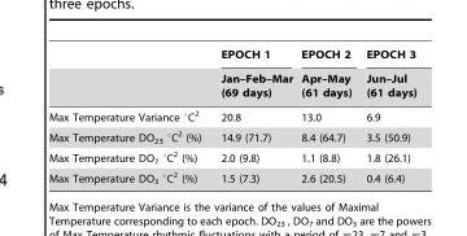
<table><thead><tr><td rowspan="2"></td><td rowspan="2">EPOCH 1 Jan–Feb–Mar (69 days)</td><td rowspan="2">EPOCH 2 Apr–May (61 days)</td><td rowspan="2">EPOCH 3 Jun–Jul (61 days)</td></tr><tr></tr></thead><tbody><tr><td>Max Temperature Variance °C<sup>2</sup></td><td>20.8</td><td>13.0</td><td>6.9</td></tr><tr><td>Max Temperature DO<sub>23</sub> °C<sup>2</sup> (%)</td><td>14.9 (71.7)</td><td>8.4 (64.7)</td><td>3.5 (50.9)</td></tr><tr><td>Max Temperature DO<sub>7</sub> °C<sup>2</sup> (%)</td><td>2.0 (9.8)</td><td>1.1 (8.8)</td><td>1.8 (26.1)</td></tr><tr><td>Max Temperature DO<sub>3</sub> °C<sup>2</sup> (%)</td><td>1.5 (7.3)</td><td>2.6 (20.5)</td><td>0.4 (6.4)</td></tr></tbody></table>